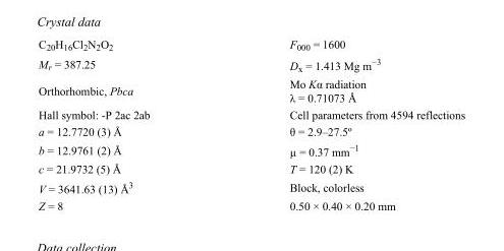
<table><tbody><tr><td>C<sub>20</sub>H<sub>16</sub>Cl<sub>2</sub>N<sub>2</sub>O<sub>2</sub></td><td>F<sub>000</sub> = 1600</td></tr><tr><td>M<sub>r</sub> = 387.25</td><td>D<sub>x</sub> = 1.413 Mg m<sup>−3</sup></td></tr><tr><td>Orthorhombic, Pbca</td><td>Mo Kα radiation λ = 0.71073 Å</td></tr><tr><td>Hall symbol: -P 2ac 2ab</td><td>Cell parameters from 4594 reflections</td></tr><tr><td>a = 12.7720 (3) Å</td><td>θ = 2.9–27.5º</td></tr><tr><td>b = 12.9761 (2) Å</td><td>µ = 0.37 mm<sup>−1</sup></td></tr><tr><td>c = 21.9732 (5) Å</td><td>T = 120 (2) K</td></tr><tr><td>V = 3641.63 (13) Å<sup>3</sup></td><td>Block, colorless</td></tr><tr><td>Z = 8</td><td>0.50 × 0.40 × 0.20 mm</td></tr></tbody></table>